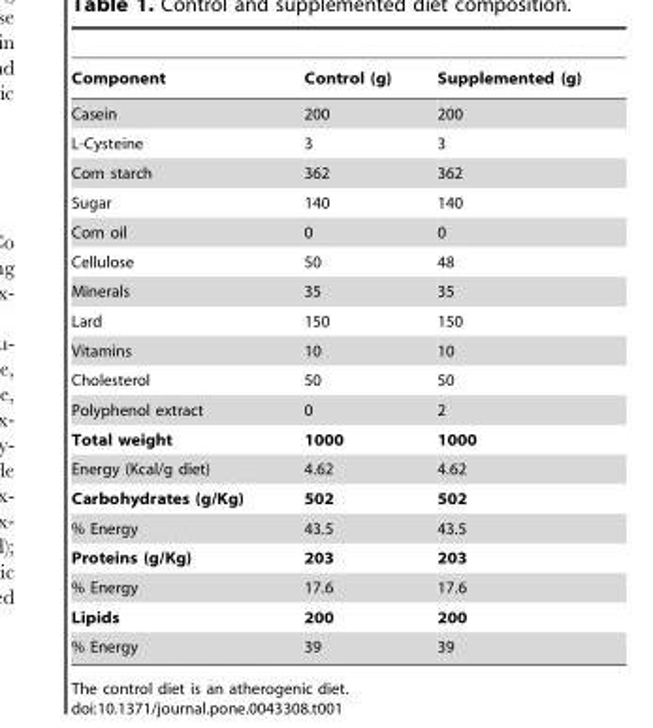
<table><thead><tr><td>Component</td><td>Control (g)</td><td>Supplemented (g)</td></tr></thead><tbody><tr><td>Casein</td><td>200</td><td>200</td></tr><tr><td>L-Cysteine</td><td>3</td><td>3</td></tr><tr><td>Corn starch</td><td>362</td><td>362</td></tr><tr><td>Sugar</td><td>140</td><td>140</td></tr><tr><td>Corn oil</td><td>0</td><td>0</td></tr><tr><td>Cellulose</td><td>50</td><td>48</td></tr><tr><td>Minerals</td><td>35</td><td>35</td></tr><tr><td>Lard</td><td>150</td><td>150</td></tr><tr><td>Vitamins</td><td>10</td><td>10</td></tr><tr><td>Cholesterol</td><td>50</td><td>50</td></tr><tr><td>Polyphenol extract</td><td>0</td><td>2</td></tr><tr><td>Total weight</td><td>1000</td><td>1000</td></tr><tr><td>Energy (Kcal/g diet)</td><td>4.62</td><td>4.62</td></tr><tr><td>Carbohydrates (g/Kg)</td><td>502</td><td>502</td></tr><tr><td>% Energy</td><td>43.5</td><td>43.5</td></tr><tr><td>Proteins (g/Kg)</td><td>203</td><td>203</td></tr><tr><td>% Energy</td><td>17.6</td><td>17.6</td></tr><tr><td>Lipids</td><td>200</td><td>200</td></tr><tr><td>% Energy</td><td>39</td><td>39</td></tr></tbody></table>